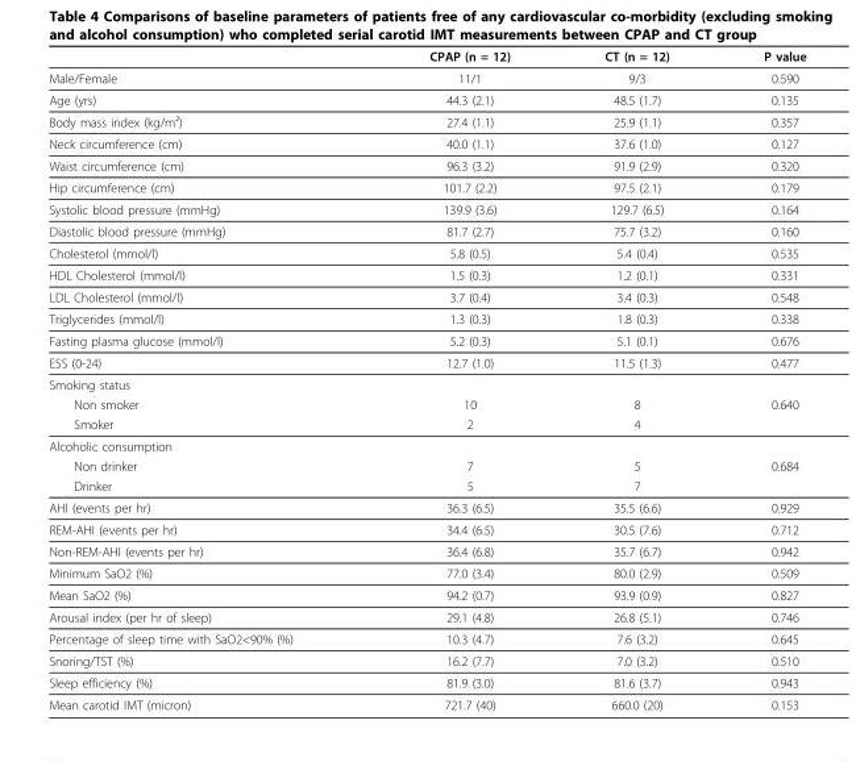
<table><thead><tr><td></td><td>CPAP (n = 12)</td><td>CT (n = 12)</td><td>P value</td></tr></thead><tbody><tr><td>Male/Female</td><td>11/1</td><td>9/3</td><td>0.590</td></tr><tr><td>Age (yrs)</td><td>44.3 (2.1)</td><td>48.5 (1.7)</td><td>0.135</td></tr><tr><td>Body mass index (kg/m²)</td><td>27.4 (1.1)</td><td>25.9 (1.1)</td><td>0.357</td></tr><tr><td>Neck circumference (cm)</td><td>40.0 (1.1)</td><td>37.6 (1.0)</td><td>0.127</td></tr><tr><td>Waist circumference (cm)</td><td>96.3 (3.2)</td><td>91.9 (2.9)</td><td>0.320</td></tr><tr><td>Hip circumference (cm)</td><td>101.7 (2.2)</td><td>97.5 (2.1)</td><td>0.179</td></tr><tr><td>Systolic blood pressure (mmHg)</td><td>139.9 (3.6)</td><td>129.7 (6.5)</td><td>0.164</td></tr><tr><td>Diastolic blood pressure (mmHg)</td><td>81.7 (2.7)</td><td>75.7 (3.2)</td><td>0.160</td></tr><tr><td>Cholesterol (mmol/l)</td><td>5.8 (0.5)</td><td>5.4 (0.4)</td><td>0.535</td></tr><tr><td>HDL Cholesterol (mmol/l)</td><td>1.5 (0.3)</td><td>1.2 (0.1)</td><td>0.331</td></tr><tr><td>LDL Cholesterol (mmol/l)</td><td>3.7 (0.4)</td><td>3.4 (0.3)</td><td>0.548</td></tr><tr><td>Triglycerides (mmol/l)</td><td>1.3 (0.3)</td><td>1.8 (0.3)</td><td>0.338</td></tr><tr><td>Fasting plasma glucose (mmol/l)</td><td>5.2 (0.3)</td><td>5.1 (0.1)</td><td>0.676</td></tr><tr><td>ESS (0-24)</td><td>12.7 (1.0)</td><td>11.5 (1.3)</td><td>0.477</td></tr><tr><td colspan="4">Smoking status</td></tr><tr><td>Non smoker</td><td>10</td><td>8</td><td>0.640</td></tr><tr><td>Smoker</td><td>2</td><td>4</td><td></td></tr><tr><td colspan="4">Alcoholic consumption</td></tr><tr><td>Non drinker</td><td>7</td><td>5</td><td>0.684</td></tr><tr><td>Drinker</td><td>5</td><td>7</td><td></td></tr><tr><td>AHI (events per hr)</td><td>36.3 (6.5)</td><td>35.5 (6.6)</td><td>0.929</td></tr><tr><td>REM-AHI (events per hr)</td><td>34.4 (6.5)</td><td>30.5 (7.6)</td><td>0.712</td></tr><tr><td>Non-REM-AHI (events per hr)</td><td>36.4 (6.8)</td><td>35.7 (6.7)</td><td>0.942</td></tr><tr><td>Minimum SaO2 (%)</td><td>77.0 (3.4)</td><td>80.0 (2.9)</td><td>0.509</td></tr><tr><td>Mean SaO2 (%)</td><td>94.2 (0.7)</td><td>93.9 (0.9)</td><td>0.827</td></tr><tr><td>Arousal index (per hr of sleep)</td><td>29.1 (4.8)</td><td>26.8 (5.1)</td><td>0.746</td></tr><tr><td>Percentage of sleep time with SaO2&lt;90% (%)</td><td>10.3 (4.7)</td><td>7.6 (3.2)</td><td>0.645</td></tr><tr><td>Snoring/TST (%)</td><td>16.2 (7.7)</td><td>7.0 (3.2)</td><td>0.510</td></tr><tr><td>Sleep efficiency (%)</td><td>81.9 (3.0)</td><td>81.6 (3.7)</td><td>0.943</td></tr><tr><td>Mean carotid IMT (micron)</td><td>721.7 (40)</td><td>660.0 (20)</td><td>0.153</td></tr></tbody></table>